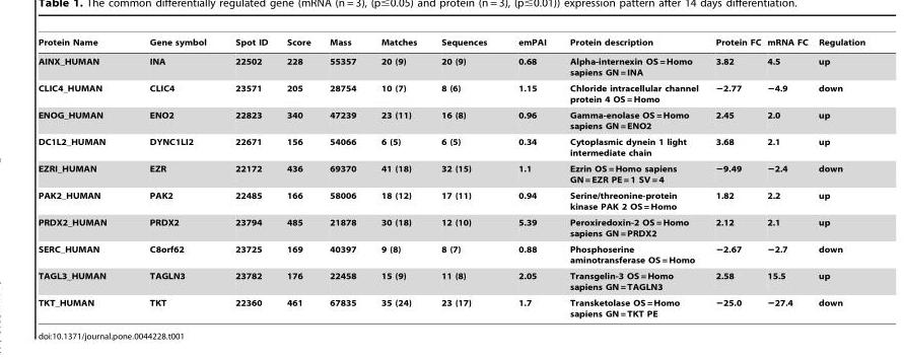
<table><thead><tr><td>Protein Name</td><td>Gene symbol</td><td>Spot ID</td><td>Score</td><td>Mass</td><td>Matches</td><td>Sequences</td><td>emPAI</td><td>Protein description</td><td>Protein FC</td><td>mRNA FC</td><td>Regulation</td></tr></thead><tbody><tr><td>AINX_HUMAN</td><td>INA</td><td>22502</td><td>228</td><td>55357</td><td>20 (9)</td><td>20 (9)</td><td>0.68</td><td>Alpha-internexin OS = Homo sapiens GN = INA</td><td>3.82</td><td>4.5</td><td>up</td></tr><tr><td>CLIC4_HUMAN</td><td>CLIC4</td><td>23571</td><td>205</td><td>28754</td><td>10 (7)</td><td>8 (6)</td><td>1.15</td><td>Chloride intracellular channel protein 4 OS = Homo</td><td>−2.77</td><td>−4.9</td><td>down</td></tr><tr><td>ENOG_HUMAN</td><td>ENO2</td><td>22823</td><td>340</td><td>47239</td><td>23 (11)</td><td>16 (8)</td><td>0.96</td><td>Gamma-enolase OS = Homo sapiens GN = ENO2</td><td>2.45</td><td>2.0</td><td>up</td></tr><tr><td>DC1L2_HUMAN</td><td>DYNC1LI2</td><td>22671</td><td>156</td><td>54066</td><td>6 (5)</td><td>6 (5)</td><td>0.34</td><td>Cytoplasmic dynein 1 light intermediate chain</td><td>3.68</td><td>2.1</td><td>up</td></tr><tr><td>EZRI_HUMAN</td><td>EZR</td><td>22172</td><td>436</td><td>69370</td><td>41 (18)</td><td>32 (15)</td><td>1.1</td><td>Ezrin OS = Homo sapiens GN = EZR PE = 1 SV = 4</td><td>−9.49</td><td>−2.4</td><td>down</td></tr><tr><td>PAK2_HUMAN</td><td>PAK2</td><td>22485</td><td>166</td><td>58006</td><td>18 (12)</td><td>17 (11)</td><td>0.94</td><td>Serine/threonine-protein kinase PAK 2 OS = Homo</td><td>1.82</td><td>2.2</td><td>up</td></tr><tr><td>PRDX2_HUMAN</td><td>PRDX2</td><td>23794</td><td>485</td><td>21878</td><td>30 (18)</td><td>12 (10)</td><td>5.39</td><td>Peroxiredoxin-2 OS = Homo sapiens GN = PRDX2</td><td>2.12</td><td>2.1</td><td>up</td></tr><tr><td>SERC_HUMAN</td><td>C8orf62</td><td>23725</td><td>169</td><td>40397</td><td>9 (8)</td><td>8 (7)</td><td>0.88</td><td>Phosphoserine aminotransferase OS = Homo</td><td>−2.67</td><td>−2.7</td><td>down</td></tr><tr><td>TAGL3_HUMAN</td><td>TAGLN3</td><td>23782</td><td>176</td><td>22458</td><td>15 (9)</td><td>11 (8)</td><td>2.05</td><td>Transgelin-3 OS = Homo sapiens GN = TAGLN3</td><td>2.58</td><td>15.5</td><td>up</td></tr><tr><td>TKT_HUMAN</td><td>TKT</td><td>22360</td><td>461</td><td>67835</td><td>35 (24)</td><td>23 (17)</td><td>1.7</td><td>Transketolase OS = Homo sapiens GN = TKT PE</td><td>−25.0</td><td>−27.4</td><td>down</td></tr></tbody></table>